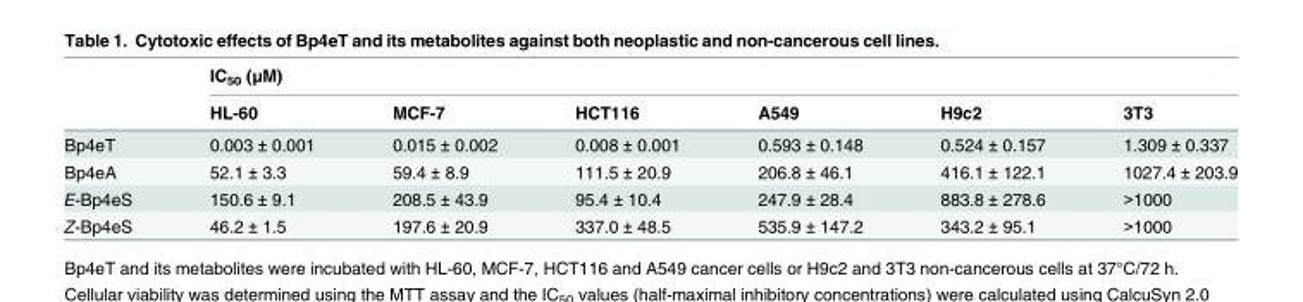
<table><thead><tr><td rowspan="2"></td><td colspan="6">IC<sub>50</sub> (μM)</td></tr><tr><td>HL-60</td><td>MCF-7</td><td>HCT116</td><td>A549</td><td>H9c2</td><td>3T3</td></tr></thead><tbody><tr><td>Bp4eT</td><td>0.003 ± 0.001</td><td>0.015 ± 0.002</td><td>0.008 ± 0.001</td><td>0.593 ± 0.148</td><td>0.524 ± 0.157</td><td>1.309 ± 0.337</td></tr><tr><td>Bp4eA</td><td>52.1 ± 3.3</td><td>59.4 ± 8.9</td><td>111.5 ± 20.9</td><td>206.8 ± 46.1</td><td>416.1 ± 122.1</td><td>1027.4 ± 203.9</td></tr><tr><td>E-Bp4eS</td><td>150.6 ± 9.1</td><td>208.5 ± 43.9</td><td>95.4 ± 10.4</td><td>247.9 ± 28.4</td><td>883.8 ± 278.6</td><td>&gt;1000</td></tr><tr><td>Z-Bp4eS</td><td>46.2 ± 1.5</td><td>197.6 ± 20.9</td><td>337.0 ± 48.5</td><td>535.9 ± 147.2</td><td>343.2 ± 95.1</td><td>&gt;1000</td></tr></tbody></table>